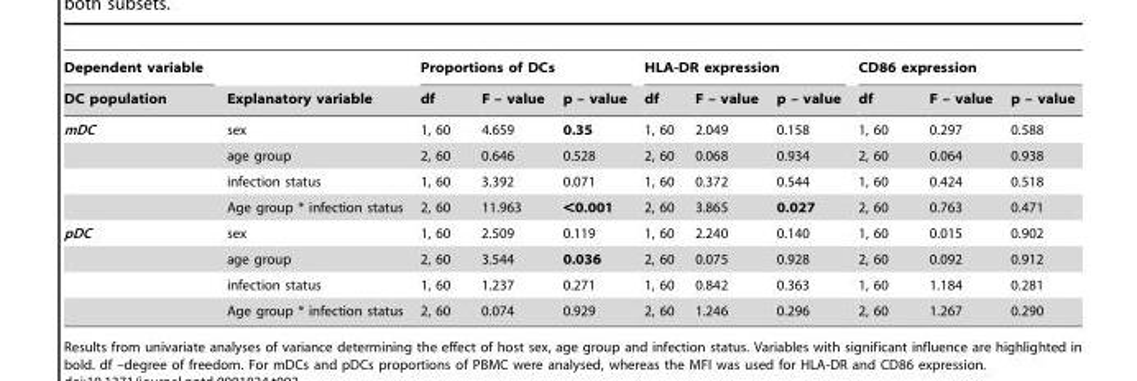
<table><thead><tr><td rowspan="2">Dependent variable DC population</td><td rowspan="2">Explanatory variable</td><td colspan="3">Proportions of DCs</td><td colspan="3">HLA-DR expression</td><td colspan="3">CD86 expression</td></tr><tr><td>df</td><td>F – value</td><td>p – value</td><td>df</td><td>F – value</td><td>p – value</td><td>df</td><td>F – value</td><td>p – value</td></tr></thead><tbody><tr><td rowspan="4">mDC</td><td>sex</td><td>1, 60</td><td>4.659</td><td>0.35</td><td>1, 60</td><td>2.049</td><td>0.158</td><td>1, 60</td><td>0.297</td><td>0.588</td></tr><tr><td>age group</td><td>2, 60</td><td>0.646</td><td>0.528</td><td>2, 60</td><td>0.068</td><td>0.934</td><td>2, 60</td><td>0.064</td><td>0.938</td></tr><tr><td>infection status</td><td>1, 60</td><td>3.392</td><td>0.071</td><td>1, 60</td><td>0.372</td><td>0.544</td><td>1, 60</td><td>0.424</td><td>0.518</td></tr><tr><td>Age group * infection status</td><td>2, 60</td><td>11.963</td><td>&lt;0.001</td><td>2, 60</td><td>3.865</td><td>0.027</td><td>2, 60</td><td>0.763</td><td>0.471</td></tr><tr><td rowspan="4">pDC</td><td>sex</td><td>1, 60</td><td>2.509</td><td>0.119</td><td>1, 60</td><td>2.240</td><td>0.140</td><td>1, 60</td><td>0.015</td><td>0.902</td></tr><tr><td>age group</td><td>2, 60</td><td>3.544</td><td>0.036</td><td>2, 60</td><td>0.075</td><td>0.928</td><td>2, 60</td><td>0.092</td><td>0.912</td></tr><tr><td>infection status</td><td>1, 60</td><td>1.237</td><td>0.271</td><td>1, 60</td><td>0.842</td><td>0.363</td><td>1, 60</td><td>1.184</td><td>0.281</td></tr><tr><td>Age group * infection status</td><td>2, 60</td><td>0.074</td><td>0.929</td><td>2, 60</td><td>1.246</td><td>0.296</td><td>2, 60</td><td>1.267</td><td>0.290</td></tr></tbody></table>